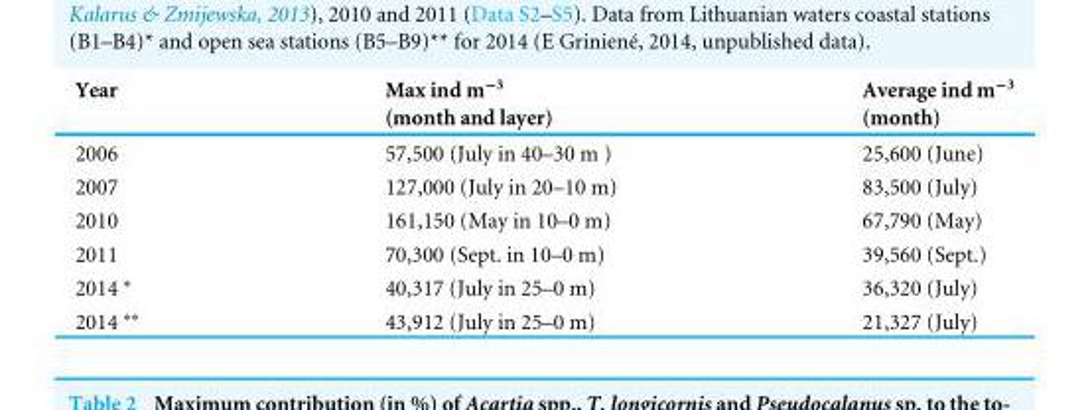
<table><thead><tr><td>Year</td><td>Max ind m<sup>−3</sup> (month and layer)</td><td>Average ind m<sup>−3</sup> (month)</td></tr></thead><tbody><tr><td>2006</td><td>57,500 (July in 40–30 m )</td><td>25,600 (June)</td></tr><tr><td>2007</td><td>127,000 (July in 20–10 m)</td><td>83,500 (July)</td></tr><tr><td>2010</td><td>161,150 (May in 10–0 m)</td><td>67,790 (May)</td></tr><tr><td>2011</td><td>70,300 (Sept. in 10–0 m)</td><td>39,560 (Sept.)</td></tr><tr><td>2014 ∗</td><td>40,317 (July in 25–0 m)</td><td>36,320 (July)</td></tr><tr><td>2014 ∗∗</td><td>43,912 (July in 25–0 m)</td><td>21,327 (July)</td></tr></tbody></table>